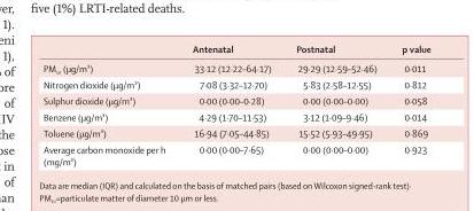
<table><thead><tr><td></td><td>Antenatal</td><td>Postnatal</td><td>p value</td></tr></thead><tbody><tr><td>PM<sub>10</sub> (μg/m³)</td><td>33·12 (12·22–64·17)</td><td>29·29 (12·59–52·46)</td><td>0·011</td></tr><tr><td>Nitrogen dioxide (μg/m³)</td><td>7·08 (3·32–12·70)</td><td>5·83 (2·58–12·55)</td><td>0·812</td></tr><tr><td>Sulphur dioxide (μg/m³)</td><td>0·00 (0·00–0·28)</td><td>0·00 (0·00–0·00)</td><td>0·058</td></tr><tr><td>Benzene (μg/m³)</td><td>4·29 (1·70–11·53)</td><td>3·12 (1·09–9·46)</td><td>0·014</td></tr><tr><td>Toluene (μg/m³)</td><td>16·94 (7·05–44·85)</td><td>15·52 (5·93–49·95)</td><td>0·869</td></tr><tr><td>Average carbon monoxide per h (mg/m³)</td><td>0·00 (0·00–7·65)</td><td>0·00 (0·00–0·00)</td><td>0·923</td></tr></tbody></table>